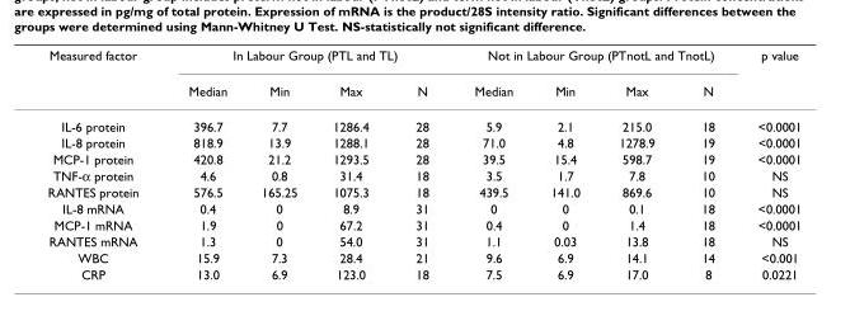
<table><thead><tr><td rowspan="2">Measured factor</td><td colspan="4">In Labour Group (PTL and TL)</td><td colspan="4">Not in Labour Group (PTnotL and TnotL)</td><td rowspan="2">p value</td></tr><tr><td>Median</td><td>Min</td><td>Max</td><td>N</td><td>Median</td><td>Min</td><td>Max</td><td>N</td></tr></thead><tbody><tr><td>IL-6 protein</td><td>396.7</td><td>7.7</td><td>1286.4</td><td>28</td><td>5.9</td><td>2.1</td><td>215.0</td><td>18</td><td>&lt;0.0001</td></tr><tr><td>IL-8 protein</td><td>818.9</td><td>13.9</td><td>1288.1</td><td>28</td><td>71.0</td><td>4.8</td><td>1278.9</td><td>19</td><td>&lt;0.0001</td></tr><tr><td>MCP-1 protein</td><td>420.8</td><td>21.2</td><td>1293.5</td><td>28</td><td>39.5</td><td>15.4</td><td>598.7</td><td>19</td><td>&lt;0.0001</td></tr><tr><td>TNF-α protein</td><td>4.6</td><td>0.8</td><td>31.4</td><td>18</td><td>3.5</td><td>1.7</td><td>7.8</td><td>10</td><td>NS</td></tr><tr><td>RANTES protein</td><td>576.5</td><td>165.25</td><td>1075.3</td><td>18</td><td>439.5</td><td>141.0</td><td>869.6</td><td>10</td><td>NS</td></tr><tr><td>IL-8 mRNA</td><td>0.4</td><td>0</td><td>8.9</td><td>31</td><td>0</td><td>0</td><td>0.1</td><td>18</td><td>&lt;0.0001</td></tr><tr><td>MCP-1 mRNA</td><td>1.9</td><td>0</td><td>67.2</td><td>31</td><td>0.4</td><td>0</td><td>1.4</td><td>18</td><td>&lt;0.0001</td></tr><tr><td>RANTES mRNA</td><td>1.3</td><td>0</td><td>54.0</td><td>31</td><td>1.1</td><td>0.03</td><td>13.8</td><td>18</td><td>NS</td></tr><tr><td>WBC</td><td>15.9</td><td>7.3</td><td>28.4</td><td>21</td><td>9.6</td><td>6.9</td><td>14.1</td><td>14</td><td>&lt;0.001</td></tr><tr><td>CRP</td><td>13.0</td><td>6.9</td><td>123.0</td><td>18</td><td>7.5</td><td>6.9</td><td>17.0</td><td>8</td><td>0.0221</td></tr></tbody></table>